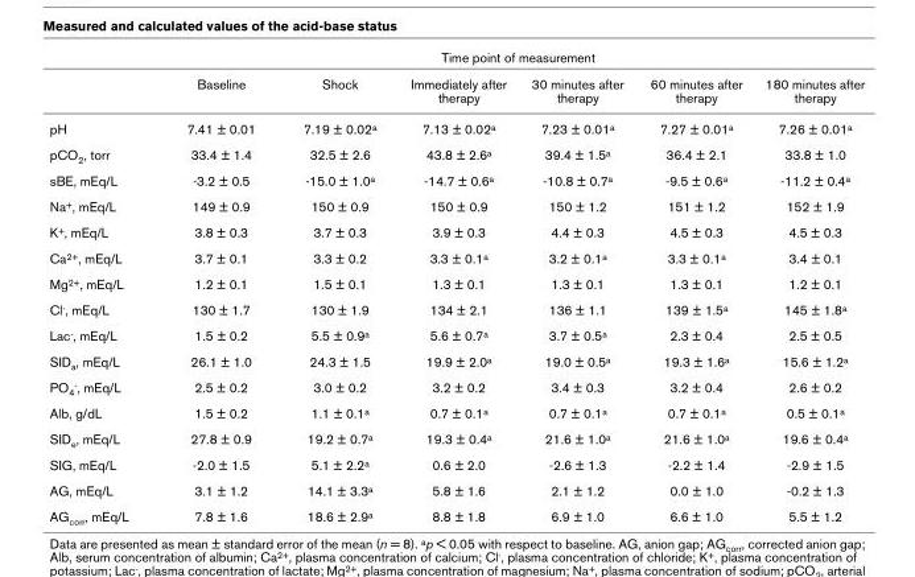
<table><thead><tr><td rowspan="2"></td><td colspan="6">Time point of measurement</td></tr><tr><td>Baseline</td><td>Shock</td><td>Immediately after therapy</td><td>30 minutes after therapy</td><td>60 minutes after therapy</td><td>180 minutes after therapy</td></tr></thead><tbody><tr><td>pH</td><td>7.41 ± 0.01</td><td>7.19 ± 0.02<sup>a</sup></td><td>7.13 ± 0.02<sup>a</sup></td><td>7.23 ± 0.01<sup>a</sup></td><td>7.27 ± 0.01<sup>a</sup></td><td>7.26 ± 0.01<sup>a</sup></td></tr><tr><td>pCO<sub>2</sub>, torr</td><td>33.4 ± 1.4</td><td>32.5 ± 2.6</td><td>43.8 ± 2.6<sup>a</sup></td><td>39.4 ± 1.5<sup>a</sup></td><td>36.4 ± 2.1</td><td>33.8 ± 1.0</td></tr><tr><td>sBE, mEq/L</td><td>-3.2 ± 0.5</td><td>-15.0 ± 1.0<sup>a</sup></td><td>-14.7 ± 0.6<sup>a</sup></td><td>-10.8 ± 0.7<sup>a</sup></td><td>-9.5 ± 0.6<sup>a</sup></td><td>-11.2 ± 0.4<sup>a</sup></td></tr><tr><td>Na<sup>+</sup>, mEq/L</td><td>149 ± 0.9</td><td>150 ± 0.9</td><td>150 ± 0.9</td><td>150 ± 1.2</td><td>151 ± 1.2</td><td>152 ± 1.9</td></tr><tr><td>K<sup>+</sup>, mEq/L</td><td>3.8 ± 0.3</td><td>3.7 ± 0.3</td><td>3.9 ± 0.3</td><td>4.4 ± 0.3</td><td>4.5 ± 0.3</td><td>4.5 ± 0.3</td></tr><tr><td>Ca<sup>2+</sup>, mEq/L</td><td>3.7 ± 0.1</td><td>3.3 ± 0.2</td><td>3.3 ± 0.1<sup>a</sup></td><td>3.2 ± 0.1<sup>a</sup></td><td>3.3 ± 0.1<sup>a</sup></td><td>3.4 ± 0.1</td></tr><tr><td>Mg<sup>2+</sup>, mEq/L</td><td>1.2 ± 0.1</td><td>1.5 ± 0.1</td><td>1.3 ± 0.1</td><td>1.3 ± 0.1</td><td>1.3 ± 0.1</td><td>1.2 ± 0.1</td></tr><tr><td>Cl<sup>-</sup>, mEq/L</td><td>130 ± 1.7</td><td>130 ± 1.9</td><td>134 ± 2.1</td><td>136 ± 1.1</td><td>139 ± 1.5<sup>a</sup></td><td>145 ± 1.8<sup>a</sup></td></tr><tr><td>Lac<sup>-</sup>, mEq/L</td><td>1.5 ± 0.2</td><td>5.5 ± 0.9<sup>a</sup></td><td>5.6 ± 0.7<sup>a</sup></td><td>3.7 ± 0.5<sup>a</sup></td><td>2.3 ± 0.4</td><td>2.5 ± 0.5</td></tr><tr><td>SID<sub>a</sub>, mEq/L</td><td>26.1 ± 1.0</td><td>24.3 ± 1.5</td><td>19.9 ± 2.0<sup>a</sup></td><td>19.0 ± 0.5<sup>a</sup></td><td>19.3 ± 1.6<sup>a</sup></td><td>15.6 ± 1.2<sup>a</sup></td></tr><tr><td>PO<sub>4</sub><sup>-</sup>, mEq/L</td><td>2.5 ± 0.2</td><td>3.0 ± 0.2</td><td>3.2 ± 0.2</td><td>3.4 ± 0.3</td><td>3.2 ± 0.4</td><td>2.6 ± 0.2</td></tr><tr><td>Alb, g/dL</td><td>1.5 ± 0.2</td><td>1.1 ± 0.1<sup>a</sup></td><td>0.7 ± 0.1<sup>a</sup></td><td>0.7 ± 0.1<sup>a</sup></td><td>0.7 ± 0.1<sup>a</sup></td><td>0.5 ± 0.1<sup>a</sup></td></tr><tr><td>SID<sub>e</sub>, mEq/L</td><td>27.8 ± 0.9</td><td>19.2 ± 0.7<sup>a</sup></td><td>19.3 ± 0.4<sup>a</sup></td><td>21.6 ± 1.0<sup>a</sup></td><td>21.6 ± 1.0<sup>a</sup></td><td>19.6 ± 0.4<sup>a</sup></td></tr><tr><td>SIG, mEq/L</td><td>-2.0 ± 1.5</td><td>5.1 ± 2.2<sup>a</sup></td><td>0.6 ± 2.0</td><td>-2.6 ± 1.3</td><td>-2.2 ± 1.4</td><td>-2.9 ± 1.5</td></tr><tr><td>AG, mEq/L</td><td>3.1 ± 1.2</td><td>14.1 ± 3.3<sup>a</sup></td><td>5.8 ± 1.6</td><td>2.1 ± 1.2</td><td>0.0 ± 1.0</td><td>-0.2 ± 1.3</td></tr><tr><td>AG<sub>corr</sub>, mEq/L</td><td>7.8 ± 1.6</td><td>18.6 ± 2.9<sup>a</sup></td><td>8.8 ± 1.8</td><td>6.9 ± 1.0</td><td>6.6 ± 1.0</td><td>5.5 ± 1.2</td></tr></tbody></table>